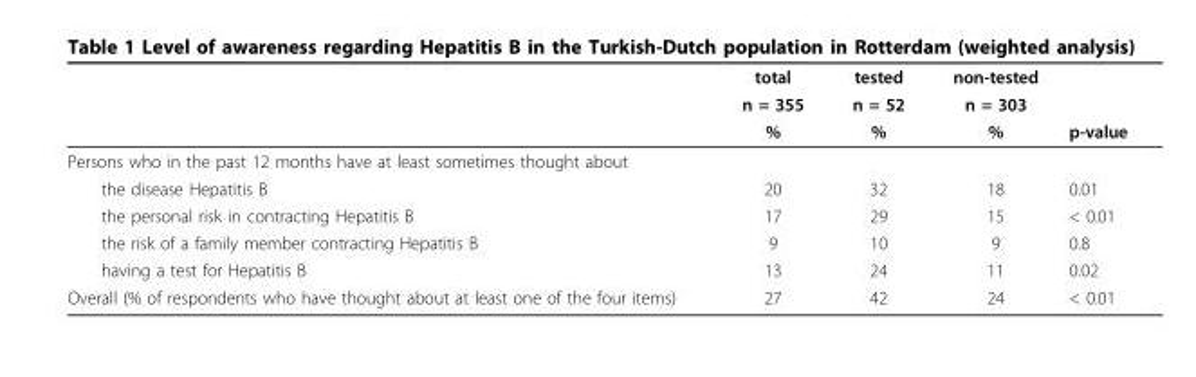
<table><thead><tr><td rowspan="3"></td><td rowspan="3">total n = 355 %</td><td rowspan="3">tested n = 52 %</td><td rowspan="3">non-tested n = 303 %</td><td rowspan="3">p-value</td></tr><tr></tr><tr></tr></thead><tbody><tr><td colspan="5">Persons who in the past 12 months have at least sometimes thought about</td></tr><tr><td>the disease Hepatitis B</td><td>20</td><td>32</td><td>18</td><td>0.01</td></tr><tr><td>the personal risk in contracting Hepatitis B</td><td>17</td><td>29</td><td>15</td><td>&lt; 0.01</td></tr><tr><td>the risk of a family member contracting Hepatitis B</td><td>9</td><td>10</td><td>9</td><td>0.8</td></tr><tr><td>having a test for Hepatitis B</td><td>13</td><td>24</td><td>11</td><td>0.02</td></tr><tr><td>Overall (% of respondents who have thought about at least one of the four items)</td><td>27</td><td>42</td><td>24</td><td>&lt; 0.01</td></tr></tbody></table>